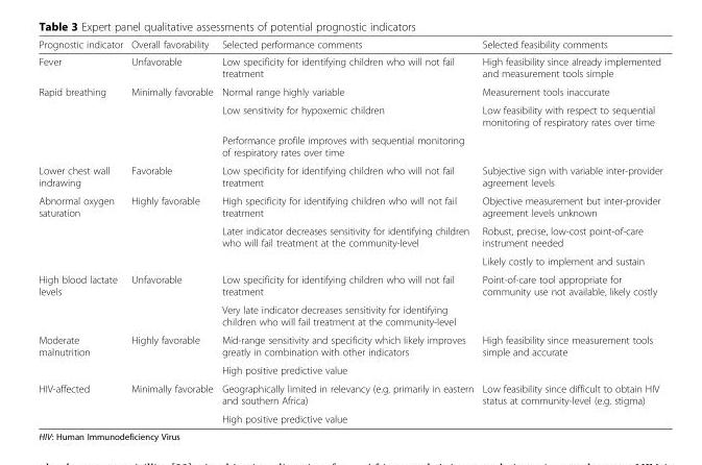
<table><thead><tr><td>Prognostic indicator</td><td>Overall favorability</td><td>Selected performance comments</td><td>Selected feasibility comments</td></tr></thead><tbody><tr><td>Fever</td><td>Unfavorable</td><td>Low specificity for identifying children who will not fail treatment</td><td>High feasibility since already implemented and measurement tools simple</td></tr><tr><td rowspan="3">Rapid breathing</td><td rowspan="3">Minimally favorable</td><td>Normal range highly variable</td><td>Measurement tools inaccurate</td></tr><tr><td>Low sensitivity for hypoxemic children</td><td>Low feasibility with respect to sequential monitoring of respiratory rates over time</td></tr><tr><td>Performance profile improves with sequential monitoring of respiratory rates over time</td><td></td></tr><tr><td>Lower chest wall indrawing</td><td>Favorable</td><td>Low specificity for identifying children who will not fail treatment</td><td>Subjective sign with variable inter-provider agreement levels</td></tr><tr><td rowspan="3">Abnormal oxygen saturation</td><td rowspan="3">Highly favorable</td><td>High specificity for identifying children who will not fail treatment</td><td>Objective measurement but inter-provider agreement levels unknown</td></tr><tr><td>Later indicator decreases sensitivity for identifying children who will fail treatment at the community-level</td><td>Robust, precise, low-cost point-of-care instrument needed</td></tr><tr><td></td><td>Likely costly to implement and sustain</td></tr><tr><td rowspan="2">High blood lactate levels</td><td rowspan="2">Unfavorable</td><td>Low specificity for identifying children who will not fail treatment</td><td>Point-of-care tool appropriate for community use not available, likely costly</td></tr><tr><td>Very late indicator decreases sensitivity for identifying children who will fail treatment at the community-level</td><td></td></tr><tr><td rowspan="2">Moderate malnutrition</td><td rowspan="2">Highly favorable</td><td>Mid-range sensitivity and specificity which likely improves greatly in combination with other indicators</td><td>High feasibility since measurement tools simple and accurate</td></tr><tr><td>High positive predictive value</td><td></td></tr><tr><td rowspan="2">HIV-affected</td><td rowspan="2">Minimally favorable</td><td>Geographically limited in relevancy (e.g. primarily in eastern and southern Africa)</td><td>Low feasibility since difficult to obtain HIV status at community-level (e.g. stigma)</td></tr><tr><td>High positive predictive value</td><td></td></tr></tbody></table>